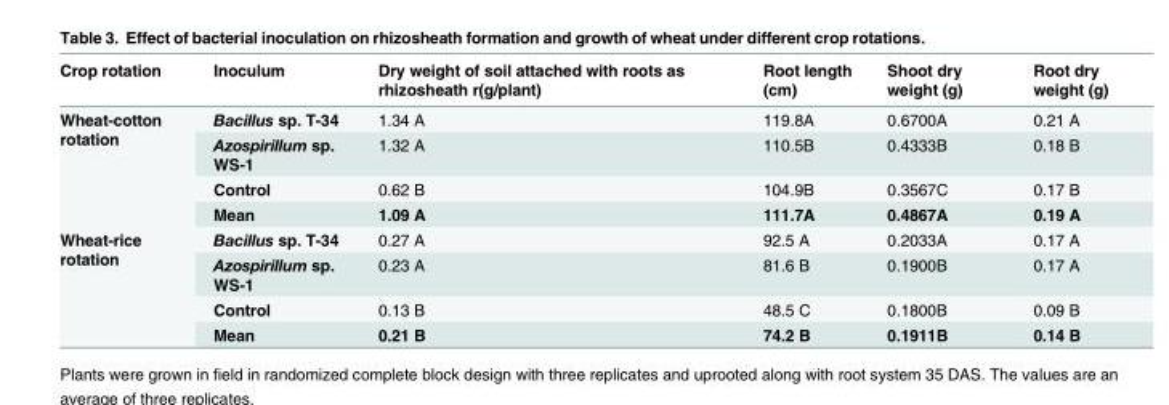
<table><thead><tr><td>Crop rotation</td><td>Inoculum</td><td>Dry weight of soil attached with roots as rhizosheath r(g/plant)</td><td>Root length (cm)</td><td>Shoot dry weight (g)</td><td>Root dry weight (g)</td></tr></thead><tbody><tr><td rowspan="4">Wheat-cotton rotation</td><td>Bacillus sp. T-34</td><td>1.34 A</td><td>119.8A</td><td>0.6700A</td><td>0.21 A</td></tr><tr><td>Azospirillum sp. WS-1</td><td>1.32 A</td><td>110.5B</td><td>0.4333B</td><td>0.18 B</td></tr><tr><td>Control</td><td>0.62 B</td><td>104.9B</td><td>0.3567C</td><td>0.17 B</td></tr><tr><td>Mean</td><td>1.09 A</td><td>111.7A</td><td>0.4867A</td><td>0.19 A</td></tr><tr><td rowspan="4">Wheat-rice rotation</td><td>Bacillus sp. T-34</td><td>0.27 A</td><td>92.5 A</td><td>0.2033A</td><td>0.17 A</td></tr><tr><td>Azospirillum sp. WS-1</td><td>0.23 A</td><td>81.6 B</td><td>0.1900B</td><td>0.17 A</td></tr><tr><td>Control</td><td>0.13 B</td><td>48.5 C</td><td>0.1800B</td><td>0.09 B</td></tr><tr><td>Mean</td><td>0.21 B</td><td>74.2 B</td><td>0.1911B</td><td>0.14 B</td></tr></tbody></table>